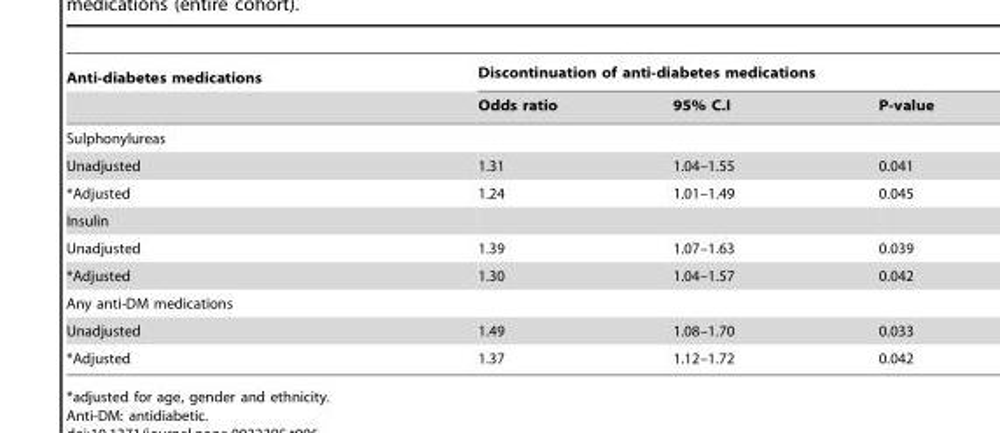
<table><thead><tr><td rowspan="2">Anti-diabetes medications</td><td colspan="3">Discontinuation of anti-diabetes medications</td></tr><tr><td>Odds ratio</td><td>95% C.I</td><td>P-value</td></tr></thead><tbody><tr><td colspan="4">Sulphonylureas</td></tr><tr><td>Unadjusted</td><td>1.31</td><td>1.04–1.55</td><td>0.041</td></tr><tr><td>*Adjusted</td><td>1.24</td><td>1.01–1.49</td><td>0.045</td></tr><tr><td colspan="4">Insulin</td></tr><tr><td>Unadjusted</td><td>1.39</td><td>1.07–1.63</td><td>0.039</td></tr><tr><td>*Adjusted</td><td>1.30</td><td>1.04–1.57</td><td>0.042</td></tr><tr><td colspan="4">Any anti-DM medications</td></tr><tr><td>Unadjusted</td><td>1.49</td><td>1.08–1.70</td><td>0.033</td></tr><tr><td>*Adjusted</td><td>1.37</td><td>1.12–1.72</td><td>0.042</td></tr></tbody></table>